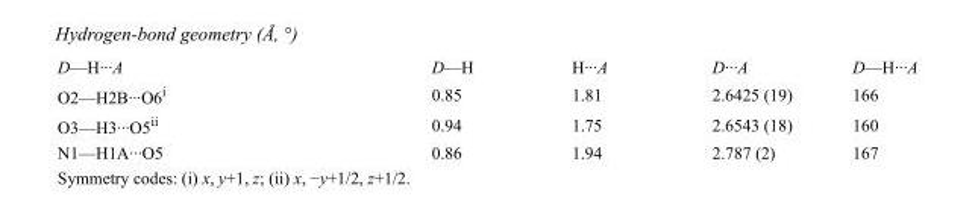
<table><tbody><tr><td>D—H···A</td><td>D—H</td><td>H···A</td><td>D···A</td><td>D—H···A</td></tr><tr><td>O2—H2B···O6<sup>i</sup></td><td>0.85</td><td>1.81</td><td>2.6425 (19)</td><td>166</td></tr><tr><td>O3—H3···O5<sup>ii</sup></td><td>0.94</td><td>1.75</td><td>2.6543 (18)</td><td>160</td></tr><tr><td>N1—H1A···O5</td><td>0.86</td><td>1.94</td><td>2.787 (2)</td><td>167</td></tr></tbody></table>